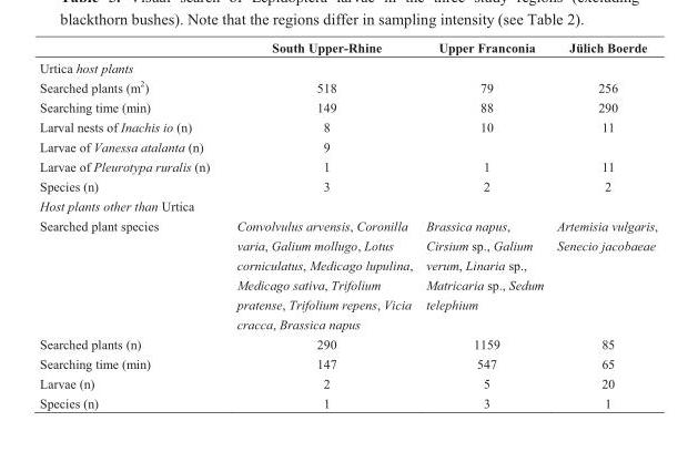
<table><thead><tr><td></td><td>South Upper-Rhine</td><td>Upper Franconia</td><td>Jülich Boerde</td></tr></thead><tbody><tr><td colspan="4">Urtica host plants</td></tr><tr><td>Searched plants (m<sup>2</sup>)</td><td>518</td><td>79</td><td>256</td></tr><tr><td>Searching time (min)</td><td>149</td><td>88</td><td>290</td></tr><tr><td>Larval nests of Inachis io (n)</td><td>8</td><td>10</td><td>11</td></tr><tr><td>Larvae of Vanessa atalanta (n)</td><td>9</td><td></td><td></td></tr><tr><td>Larvae of Pleurotypa ruralis (n)</td><td>1</td><td>1</td><td>11</td></tr><tr><td>Species (n)</td><td>3</td><td>2</td><td>2</td></tr><tr><td colspan="4">Host plants other than Urtica</td></tr><tr><td>Searched plant species</td><td>Convolvulus arvensis, Coronilla varia, Galium mollugo, Lotus corniculatus, Medicago lupulina, Medicago sativa, Trifolium pratense, Trifolium repens, Vicia cracca, Brassica napus</td><td>Brassica napus, Cirsium sp., Galium verum, Linaria sp., Matricaria sp., Sedum telephium</td><td>Artemisia vulgaris, Senecio jacobaeae</td></tr><tr><td>Searched plants (n)</td><td>290</td><td>1159</td><td>85</td></tr><tr><td>Searching time (min)</td><td>147</td><td>547</td><td>65</td></tr><tr><td>Larvae (n)</td><td>2</td><td>5</td><td>20</td></tr><tr><td>Species (n)</td><td>1</td><td>3</td><td>1</td></tr></tbody></table>